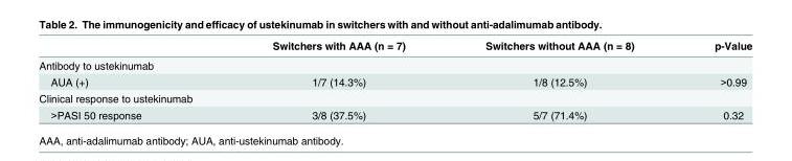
<table><thead><tr><td></td><td>Switchers with AAA (n = 7)</td><td>Switchers without AAA (n = 8)</td><td>p-Value</td></tr></thead><tbody><tr><td colspan="4">Antibody to ustekinumab</td></tr><tr><td>AUA (+)</td><td>1/7 (14.3%)</td><td>1/8 (12.5%)</td><td>&gt;0.99</td></tr><tr><td colspan="4">Clinical response to ustekinumab</td></tr><tr><td>&gt;PASI 50 response</td><td>3/8 (37.5%)</td><td>5/7 (71.4%)</td><td>0.32</td></tr></tbody></table>